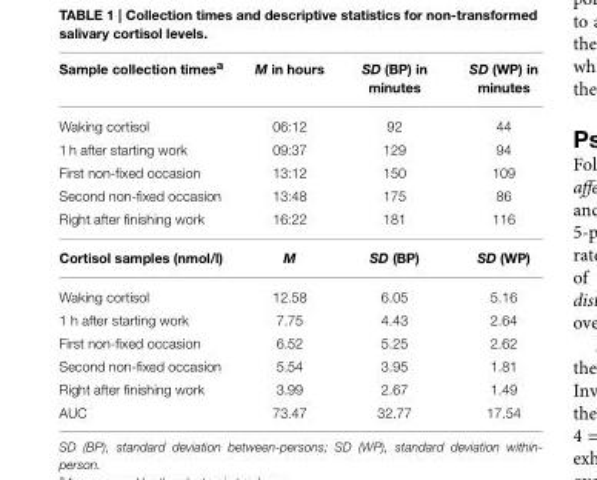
<table><thead><tr><td>Sample collection times<sup>a</sup></td><td>M in hours</td><td>SD (BP) in minutes</td><td>SD (WP) in minutes</td></tr></thead><tbody><tr><td>Waking cortisol</td><td>06:12</td><td>92</td><td>44</td></tr><tr><td>1 h after starting work</td><td>09:37</td><td>129</td><td>94</td></tr><tr><td>First non-fixed occasion</td><td>13:12</td><td>150</td><td>109</td></tr><tr><td>Second non-fixed occasion</td><td>13:48</td><td>175</td><td>86</td></tr><tr><td>Right after finishing work</td><td>16:22</td><td>181</td><td>116</td></tr><tr><td>Cortisol samples (nmol/l)</td><td>M</td><td>SD (BP)</td><td>SD (WP)</td></tr><tr><td>Waking cortisol</td><td>12.58</td><td>6.05</td><td>5.16</td></tr><tr><td>1 h after starting work</td><td>7.75</td><td>4.43</td><td>2.64</td></tr><tr><td>First non-fixed occasion</td><td>6.52</td><td>5.25</td><td>2.62</td></tr><tr><td>Second non-fixed occasion</td><td>5.54</td><td>3.95</td><td>1.81</td></tr><tr><td>Right after finishing work</td><td>3.99</td><td>2.67</td><td>1.49</td></tr><tr><td>AUC</td><td>73.47</td><td>32.77</td><td>17.54</td></tr></tbody></table>